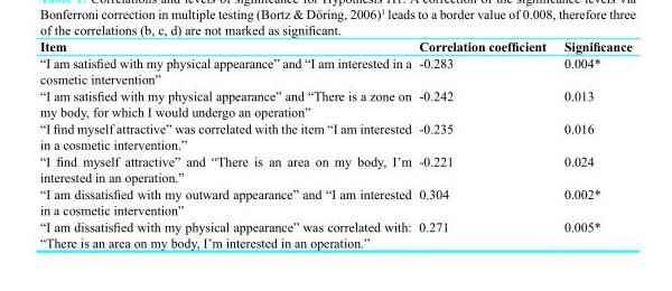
<table><thead><tr><td>Item</td><td>Correlation coefficient</td><td>Significance</td></tr></thead><tbody><tr><td>“I am satisfied with my physical appearance” and “I am interested in a cosmetic intervention”</td><td>-0.283</td><td>0.004*</td></tr><tr><td>“I am satisfied with my physical appearance” and “There is a zone on my body, for which I would undergo an operation”</td><td>-0.242</td><td>0.013</td></tr><tr><td>“I find myself attractive” was correlated with the item “I am interested in a cosmetic intervention.”</td><td>-0.235</td><td>0.016</td></tr><tr><td>“I find myself attractive” and “There is an area on my body, I’m interested in an operation.”</td><td>-0.221</td><td>0.024</td></tr><tr><td>“I am dissatisfied with my outward appearance” and “I am interested in a cosmetic intervention”</td><td>0.304</td><td>0.002*</td></tr><tr><td>“I am dissatisfied with my physical appearance” was correlated with: “There is an area on my body, I’m interested in an operation.”</td><td>0.271</td><td>0.005*</td></tr></tbody></table>